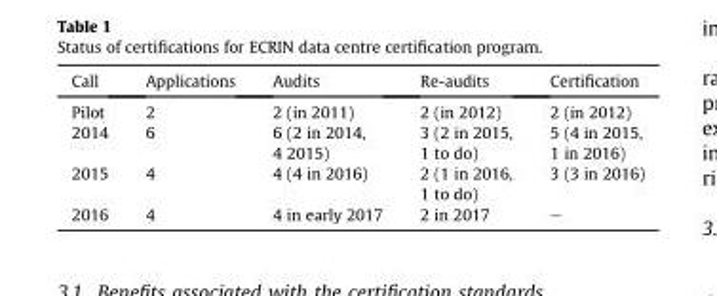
<table><thead><tr><td>Call</td><td>Applications</td><td>Audits</td><td>Re-audits</td><td>Certification</td></tr></thead><tbody><tr><td>Pilot</td><td>2</td><td>2 (in 2011)</td><td>2 (in 2012)</td><td>2 (in 2012)</td></tr><tr><td>2014</td><td>6</td><td>6 (2 in 2014, 4 2015)</td><td>3 (2 in 2015, 1 to do)</td><td>5 (4 in 2015, 1 in 2016)</td></tr><tr><td>2015</td><td>4</td><td>4 (4 in 2016)</td><td>2 (1 in 2016, 1 to do)</td><td>3 (3 in 2016)</td></tr><tr><td>2016</td><td>4</td><td>4 in early 2017</td><td>2 in 2017</td><td>–</td></tr></tbody></table>